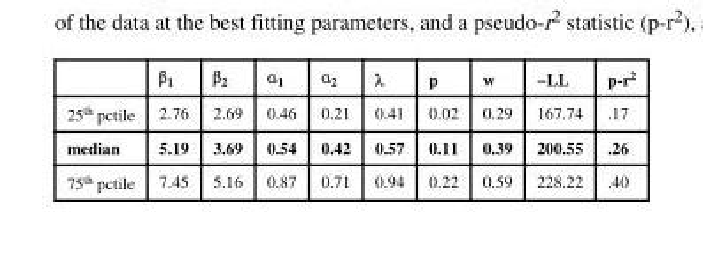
<table><thead><tr><td></td><td>β<sub>1</sub></td><td>β<sub>2</sub></td><td>α<sub>1</sub></td><td>α<sub>2</sub></td><td>λ</td><td>p</td><td>w</td><td>−LL</td><td>p-r<sup>2</sup></td></tr></thead><tbody><tr><td>25<sup>th</sup> pctile</td><td>2.76</td><td>2.69</td><td>0.46</td><td>0.21</td><td>0.41</td><td>0.02</td><td>0.29</td><td>167.74</td><td>.17</td></tr><tr><td>median</td><td>5.19</td><td>3.69</td><td>0.54</td><td>0.42</td><td>0.57</td><td>0.11</td><td>0.39</td><td>200.55</td><td>.26</td></tr><tr><td>75<sup>th</sup> pctile</td><td>7.45</td><td>5.16</td><td>0.87</td><td>0.71</td><td>0.94</td><td>0.22</td><td>0.59</td><td>228.22</td><td>.40</td></tr></tbody></table>